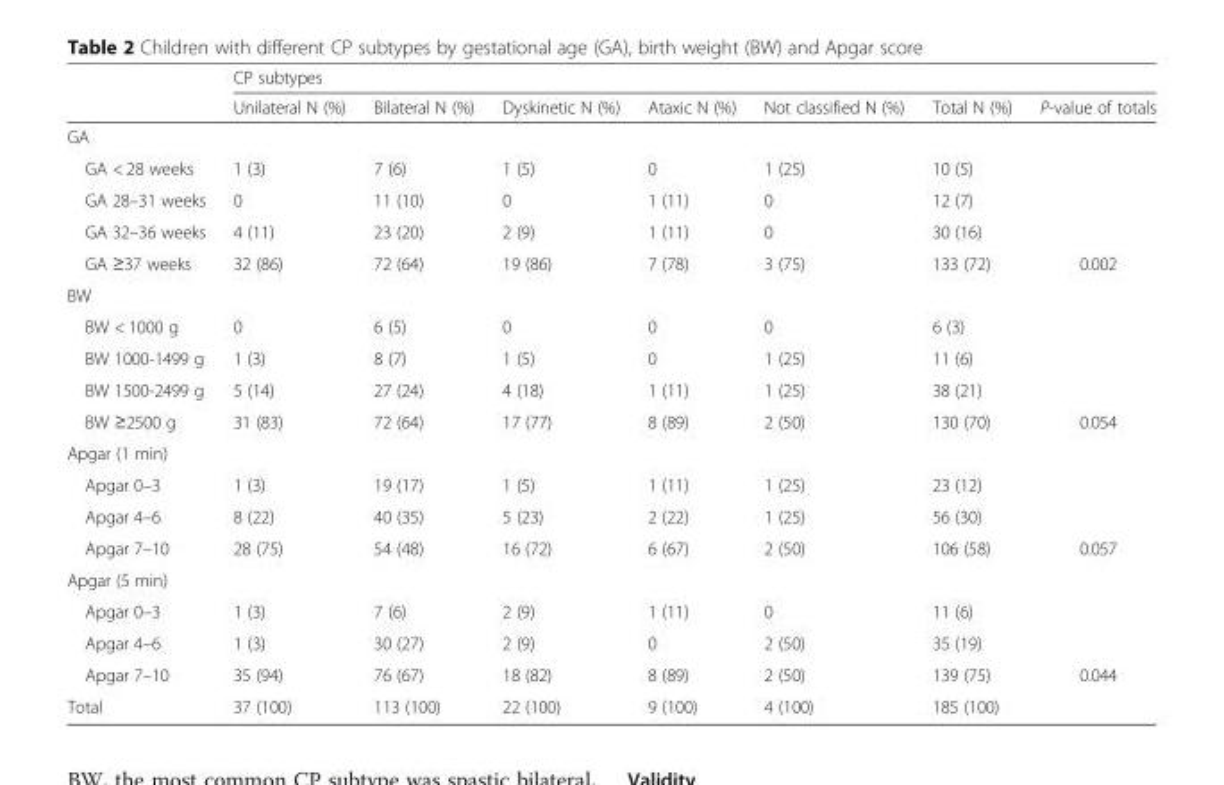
<table><thead><tr><td rowspan="2"></td><td colspan="7">CP subtypes</td></tr><tr><td>Unilateral N (%)</td><td>Bilateral N (%)</td><td>Dyskinetic N (%)</td><td>Ataxic N (%)</td><td>Not classified N (%)</td><td>Total N (%)</td><td>P-value of totals</td></tr></thead><tbody><tr><td colspan="8">GA</td></tr><tr><td>GA &lt; 28 weeks</td><td>1 (3)</td><td>7 (6)</td><td>1 (5)</td><td>0</td><td>1 (25)</td><td>10 (5)</td><td></td></tr><tr><td>GA 28–31 weeks</td><td>0</td><td>11 (10)</td><td>0</td><td>1 (11)</td><td>0</td><td>12 (7)</td><td></td></tr><tr><td>GA 32–36 weeks</td><td>4 (11)</td><td>23 (20)</td><td>2 (9)</td><td>1 (11)</td><td>0</td><td>30 (16)</td><td></td></tr><tr><td>GA ≥37 weeks</td><td>32 (86)</td><td>72 (64)</td><td>19 (86)</td><td>7 (78)</td><td>3 (75)</td><td>133 (72)</td><td>0.002</td></tr><tr><td colspan="8">BW</td></tr><tr><td>BW &lt; 1000 g</td><td>0</td><td>6 (5)</td><td>0</td><td>0</td><td>0</td><td>6 (3)</td><td></td></tr><tr><td>BW 1000-1499 g</td><td>1 (3)</td><td>8 (7)</td><td>1 (5)</td><td>0</td><td>1 (25)</td><td>11 (6)</td><td></td></tr><tr><td>BW 1500-2499 g</td><td>5 (14)</td><td>27 (24)</td><td>4 (18)</td><td>1 (11)</td><td>1 (25)</td><td>38 (21)</td><td></td></tr><tr><td>BW ≥2500 g</td><td>31 (83)</td><td>72 (64)</td><td>17 (77)</td><td>8 (89)</td><td>2 (50)</td><td>130 (70)</td><td>0.054</td></tr><tr><td colspan="8">Apgar (1 min)</td></tr><tr><td>Apgar 0–3</td><td>1 (3)</td><td>19 (17)</td><td>1 (5)</td><td>1 (11)</td><td>1 (25)</td><td>23 (12)</td><td></td></tr><tr><td>Apgar 4–6</td><td>8 (22)</td><td>40 (35)</td><td>5 (23)</td><td>2 (22)</td><td>1 (25)</td><td>56 (30)</td><td></td></tr><tr><td>Apgar 7–10</td><td>28 (75)</td><td>54 (48)</td><td>16 (72)</td><td>6 (67)</td><td>2 (50)</td><td>106 (58)</td><td>0.057</td></tr><tr><td colspan="8">Apgar (5 min)</td></tr><tr><td>Apgar 0–3</td><td>1 (3)</td><td>7 (6)</td><td>2 (9)</td><td>1 (11)</td><td>0</td><td>11 (6)</td><td></td></tr><tr><td>Apgar 4–6</td><td>1 (3)</td><td>30 (27)</td><td>2 (9)</td><td>0</td><td>2 (50)</td><td>35 (19)</td><td></td></tr><tr><td>Apgar 7–10</td><td>35 (94)</td><td>76 (67)</td><td>18 (82)</td><td>8 (89)</td><td>2 (50)</td><td>139 (75)</td><td>0.044</td></tr><tr><td>Total</td><td>37 (100)</td><td>113 (100)</td><td>22 (100)</td><td>9 (100)</td><td>4 (100)</td><td>185 (100)</td><td></td></tr></tbody></table>